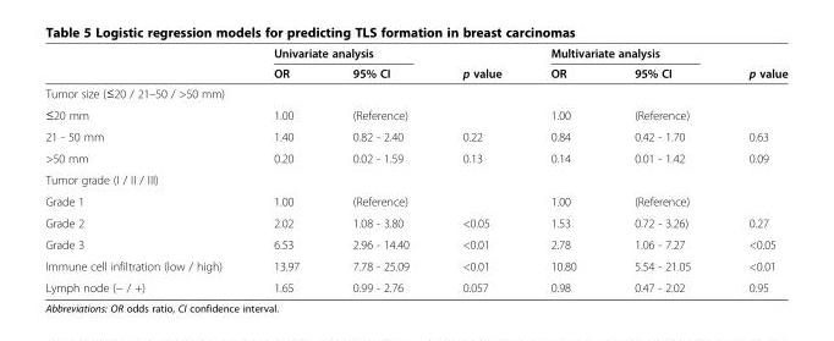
<table><thead><tr><td rowspan="2"></td><td colspan="2">Univariate analysis</td><td rowspan="2">p value</td><td colspan="2">Multivariate analysis</td><td rowspan="2">p value</td></tr><tr><td>OR</td><td>95% CI</td><td>OR</td><td>95% CI</td></tr></thead><tbody><tr><td colspan="7">Tumor size (≤20 / 21–50 / &gt;50 mm)</td></tr><tr><td>≤20 mm</td><td>1.00</td><td>(Reference)</td><td></td><td>1.00</td><td>(Reference)</td><td></td></tr><tr><td>21 - 50 mm</td><td>1.40</td><td>0.82 - 2.40</td><td>0.22</td><td>0.84</td><td>0.42 - 1.70</td><td>0.63</td></tr><tr><td>&gt;50 mm</td><td>0.20</td><td>0.02 - 1.59</td><td>0.13</td><td>0.14</td><td>0.01 - 1.42</td><td>0.09</td></tr><tr><td colspan="7">Tumor grade (I / II / III)</td></tr><tr><td>Grade 1</td><td>1.00</td><td>(Reference)</td><td></td><td>1.00</td><td>(Reference)</td><td></td></tr><tr><td>Grade 2</td><td>2.02</td><td>1.08 - 3.80</td><td>&lt;0.05</td><td>1.53</td><td>0.72 - 3.26)</td><td>0.27</td></tr><tr><td>Grade 3</td><td>6.53</td><td>2.96 - 14.40</td><td>&lt;0.01</td><td>2.78</td><td>1.06 - 7.27</td><td>&lt;0.05</td></tr><tr><td>Immune cell infiltration (low / high)</td><td>13.97</td><td>7.78 - 25.09</td><td>&lt;0.01</td><td>10.80</td><td>5.54 - 21.05</td><td>&lt;0.01</td></tr><tr><td>Lymph node (− / +)</td><td>1.65</td><td>0.99 - 2.76</td><td>0.057</td><td>0.98</td><td>0.47 - 2.02</td><td>0.95</td></tr></tbody></table>